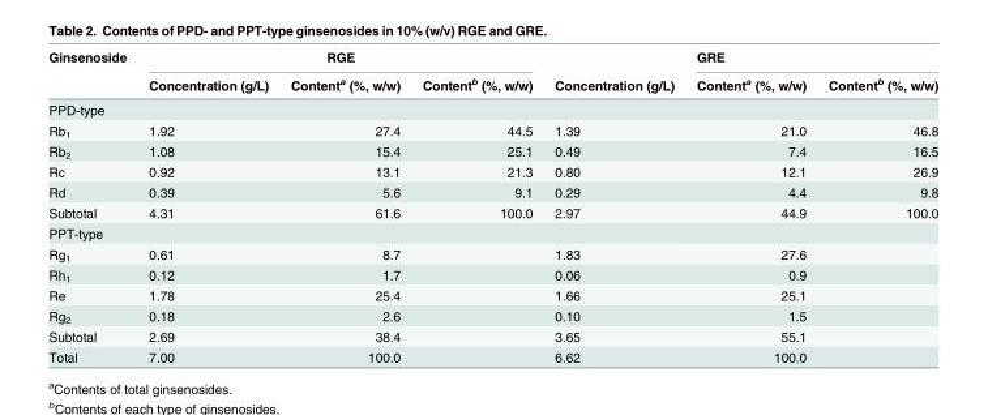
<table><thead><tr><td rowspan="2">Ginsenoside</td><td colspan="3">RGE</td><td rowspan="2">Concentration (g/L)</td><td colspan="2">GRE</td></tr><tr><td>Concentration (g/L)</td><td>Content<sup>a</sup> (%, w/w)</td><td>Content<sup>b</sup> (%, w/w)</td><td>Content<sup>a</sup> (%, w/w)</td><td>Content<sup>b</sup> (%, w/w)</td></tr></thead><tbody><tr><td colspan="7">PPD-type</td></tr><tr><td>Rb<sub>1</sub></td><td>1.92</td><td>27.4</td><td>44.5</td><td>1.39</td><td>21.0</td><td>46.8</td></tr><tr><td>Rb<sub>2</sub></td><td>1.08</td><td>15.4</td><td>25.1</td><td>0.49</td><td>7.4</td><td>16.5</td></tr><tr><td>Rc</td><td>0.92</td><td>13.1</td><td>21.3</td><td>0.80</td><td>12.1</td><td>26.9</td></tr><tr><td>Rd</td><td>0.39</td><td>5.6</td><td>9.1</td><td>0.29</td><td>4.4</td><td>9.8</td></tr><tr><td>Subtotal</td><td>4.31</td><td>61.6</td><td>100.0</td><td>2.97</td><td>44.9</td><td>100.0</td></tr><tr><td colspan="7">PPT-type</td></tr><tr><td>Rg<sub>1</sub></td><td>0.61</td><td>8.7</td><td></td><td>1.83</td><td>27.6</td><td></td></tr><tr><td>Rh<sub>1</sub></td><td>0.12</td><td>1.7</td><td></td><td>0.06</td><td>0.9</td><td></td></tr><tr><td>Re</td><td>1.78</td><td>25.4</td><td></td><td>1.66</td><td>25.1</td><td></td></tr><tr><td>Rg<sub>2</sub></td><td>0.18</td><td>2.6</td><td></td><td>0.10</td><td>1.5</td><td></td></tr><tr><td>Subtotal</td><td>2.69</td><td>38.4</td><td></td><td>3.65</td><td>55.1</td><td></td></tr><tr><td>Total</td><td>7.00</td><td>100.0</td><td></td><td>6.62</td><td>100.0</td><td></td></tr></tbody></table>